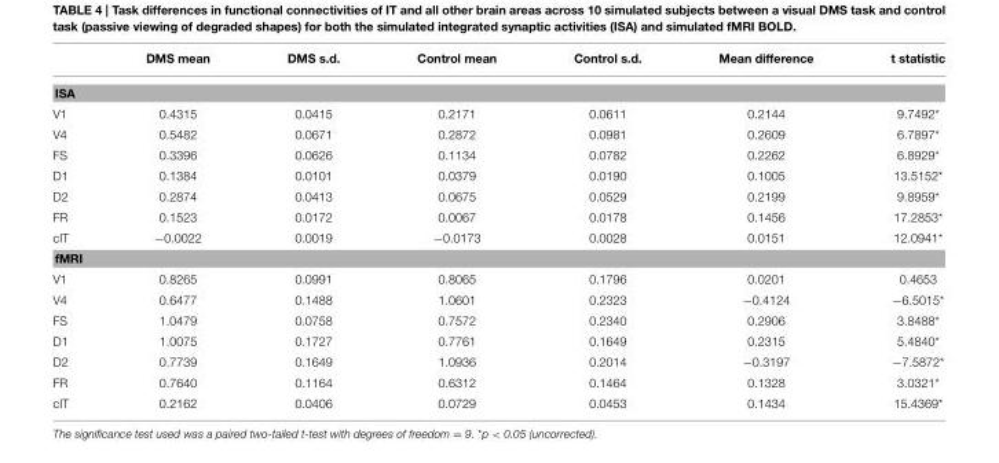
<table><thead><tr><td></td><td>DMS mean</td><td>DMS s.d.</td><td>Control mean</td><td>Control s.d.</td><td>Mean difference</td><td>t statistic</td></tr></thead><tbody><tr><td colspan="7">ISA</td></tr><tr><td>V1</td><td>0.4315</td><td>0.0415</td><td>0.2171</td><td>0.0611</td><td>0.2144</td><td>9.7492*</td></tr><tr><td>V4</td><td>0.5482</td><td>0.0671</td><td>0.2872</td><td>0.0981</td><td>0.2609</td><td>6.7897*</td></tr><tr><td>FS</td><td>0.3396</td><td>0.0626</td><td>0.1134</td><td>0.0782</td><td>0.2262</td><td>6.8929*</td></tr><tr><td>D1</td><td>0.1384</td><td>0.0101</td><td>0.0379</td><td>0.0190</td><td>0.1005</td><td>13.5152*</td></tr><tr><td>D2</td><td>0.2874</td><td>0.0413</td><td>0.0675</td><td>0.0529</td><td>0.2199</td><td>9.8959*</td></tr><tr><td>FR</td><td>0.1523</td><td>0.0172</td><td>0.0067</td><td>0.0178</td><td>0.1456</td><td>17.2853*</td></tr><tr><td>cIT</td><td>−0.0022</td><td>0.0019</td><td>−0.0173</td><td>0.0028</td><td>0.0151</td><td>12.0941*</td></tr><tr><td colspan="7">fMRI</td></tr><tr><td>V1</td><td>0.8265</td><td>0.0991</td><td>0.8065</td><td>0.1796</td><td>0.0201</td><td>0.4653</td></tr><tr><td>V4</td><td>0.6477</td><td>0.1488</td><td>1.0601</td><td>0.2323</td><td>−0.4124</td><td>−6.5015*</td></tr><tr><td>FS</td><td>1.0479</td><td>0.0758</td><td>0.7572</td><td>0.2340</td><td>0.2906</td><td>3.8488*</td></tr><tr><td>D1</td><td>1.0075</td><td>0.1727</td><td>0.7761</td><td>0.1649</td><td>0.2315</td><td>5.4840*</td></tr><tr><td>D2</td><td>0.7739</td><td>0.1649</td><td>1.0936</td><td>0.2014</td><td>−0.3197</td><td>−7.5872*</td></tr><tr><td>FR</td><td>0.7640</td><td>0.1164</td><td>0.6312</td><td>0.1464</td><td>0.1328</td><td>3.0321*</td></tr><tr><td>cIT</td><td>0.2162</td><td>0.0406</td><td>0.0729</td><td>0.0453</td><td>0.1434</td><td>15.4369*</td></tr></tbody></table>